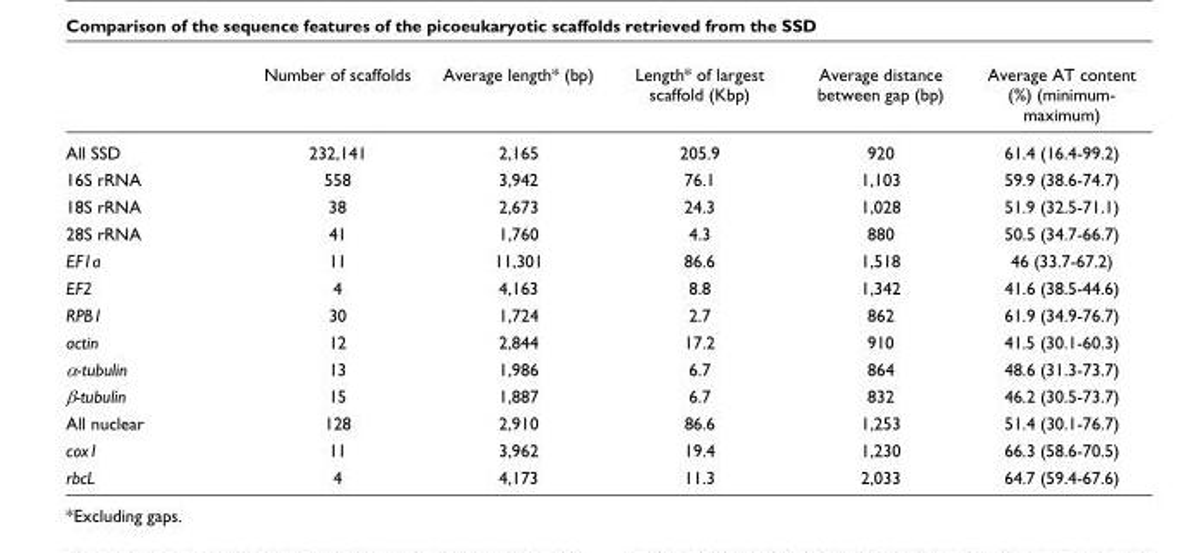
<table><thead><tr><td></td><td>Number of scaffolds</td><td>Average length* (bp)</td><td>Length* of largest scaffold (Kbp)</td><td>Average distance between gap (bp)</td><td>Average AT content (%) (minimum- maximum)</td></tr></thead><tbody><tr><td>All SSD</td><td>232,141</td><td>2,165</td><td>205.9</td><td>920</td><td>61.4 (16.4-99.2)</td></tr><tr><td>16S rRNA</td><td>558</td><td>3,942</td><td>76.1</td><td>1,103</td><td>59.9 (38.6-74.7)</td></tr><tr><td>18S rRNA</td><td>38</td><td>2,673</td><td>24.3</td><td>1,028</td><td>51.9 (32.5-71.1)</td></tr><tr><td>28S rRNA</td><td>41</td><td>1,760</td><td>4.3</td><td>880</td><td>50.5 (34.7-66.7)</td></tr><tr><td>EF1a</td><td>11</td><td>11,301</td><td>86.6</td><td>1,518</td><td>46 (33.7-67.2)</td></tr><tr><td>EF2</td><td>4</td><td>4,163</td><td>8.8</td><td>1,342</td><td>41.6 (38.5-44.6)</td></tr><tr><td>RPB1</td><td>30</td><td>1,724</td><td>2.7</td><td>862</td><td>61.9 (34.9-76.7)</td></tr><tr><td>actin</td><td>12</td><td>2,844</td><td>17.2</td><td>910</td><td>41.5 (30.1-60.3)</td></tr><tr><td>α-tubulin</td><td>13</td><td>1,986</td><td>6.7</td><td>864</td><td>48.6 (31.3-73.7)</td></tr><tr><td>β-tubulin</td><td>15</td><td>1,887</td><td>6.7</td><td>832</td><td>46.2 (30.5-73.7)</td></tr><tr><td>All nuclear</td><td>128</td><td>2,910</td><td>86.6</td><td>1,253</td><td>51.4 (30.1-76.7)</td></tr><tr><td>cox1</td><td>11</td><td>3,962</td><td>19.4</td><td>1,230</td><td>66.3 (58.6-70.5)</td></tr><tr><td>rbcL</td><td>4</td><td>4,173</td><td>11.3</td><td>2,033</td><td>64.7 (59.4-67.6)</td></tr></tbody></table>